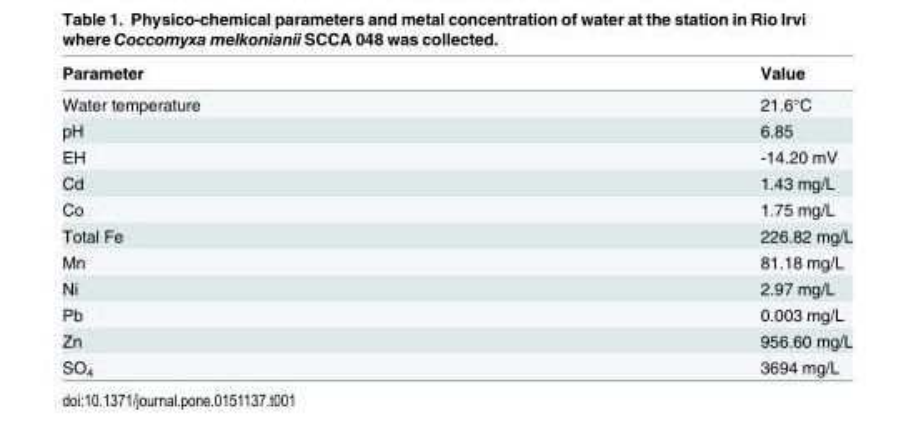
<table><thead><tr><td>Parameter</td><td>Value</td></tr></thead><tbody><tr><td>Water temperature</td><td>21.6°C</td></tr><tr><td>pH</td><td>6.85</td></tr><tr><td>EH</td><td>-14.20 mV</td></tr><tr><td>Cd</td><td>1.43 mg/L</td></tr><tr><td>Co</td><td>1.75 mg/L</td></tr><tr><td>Total Fe</td><td>226.82 mg/L</td></tr><tr><td>Mn</td><td>81.18 mg/L</td></tr><tr><td>Ni</td><td>2.97 mg/L</td></tr><tr><td>Pb</td><td>0.003 mg/L</td></tr><tr><td>Zn</td><td>956.60 mg/L</td></tr><tr><td>SO<sub>4</sub></td><td>3694 mg/L</td></tr></tbody></table>